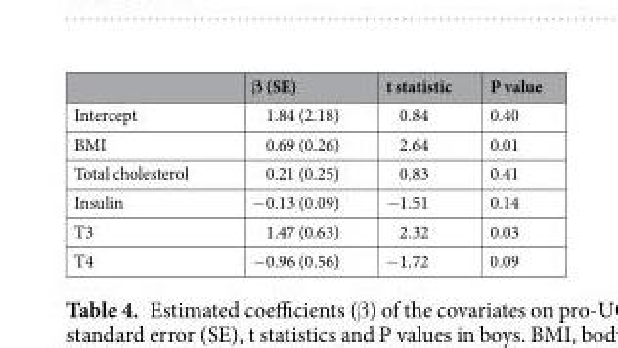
<table><thead><tr><td></td><td>β (SE)</td><td>t statistic</td><td>P value</td></tr></thead><tbody><tr><td>Intercept</td><td>1.84 (2.18)</td><td>0.84</td><td>0.40</td></tr><tr><td>BMI</td><td>0.69 (0.26)</td><td>2.64</td><td>0.01</td></tr><tr><td>Total cholesterol</td><td>0.21 (0.25)</td><td>0.83</td><td>0.41</td></tr><tr><td>Insulin</td><td>−0.13 (0.09)</td><td>−1.51</td><td>0.14</td></tr><tr><td>T3</td><td>1.47 (0.63)</td><td>2.32</td><td>0.03</td></tr><tr><td>T4</td><td>−0.96 (0.56)</td><td>−1.72</td><td>0.09</td></tr></tbody></table>